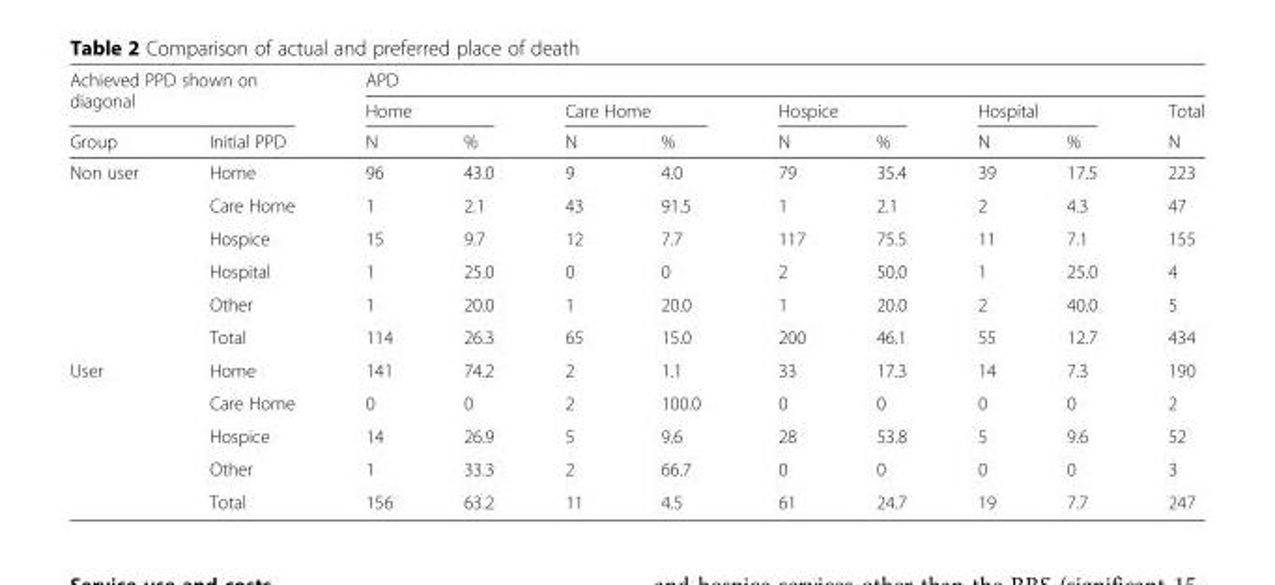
<table><thead><tr><td rowspan="2" colspan="2">Achieved PPD shown on diagonal</td><td colspan="9">APD</td></tr><tr><td colspan="2">Home</td><td colspan="2">Care Home</td><td colspan="2">Hospice</td><td colspan="2">Hospital</td><td rowspan="2">Total N</td></tr><tr><td>Group</td><td>Initial PPD</td><td>N</td><td>%</td><td>N</td><td>%</td><td>N</td><td>%</td><td>N</td><td>%</td></tr></thead><tbody><tr><td rowspan="6">Non user</td><td>Home</td><td>96</td><td>43.0</td><td>9</td><td>4.0</td><td>79</td><td>35.4</td><td>39</td><td>17.5</td><td>223</td></tr><tr><td>Care Home</td><td>1</td><td>2.1</td><td>43</td><td>91.5</td><td>1</td><td>2.1</td><td>2</td><td>4.3</td><td>47</td></tr><tr><td>Hospice</td><td>15</td><td>9.7</td><td>12</td><td>7.7</td><td>117</td><td>75.5</td><td>11</td><td>7.1</td><td>155</td></tr><tr><td>Hospital</td><td>1</td><td>25.0</td><td>0</td><td>0</td><td>2</td><td>50.0</td><td>1</td><td>25.0</td><td>4</td></tr><tr><td>Other</td><td>1</td><td>20.0</td><td>1</td><td>20.0</td><td>1</td><td>20.0</td><td>2</td><td>40.0</td><td>5</td></tr><tr><td>Total</td><td>114</td><td>26.3</td><td>65</td><td>15.0</td><td>200</td><td>46.1</td><td>55</td><td>12.7</td><td>434</td></tr><tr><td rowspan="5">User</td><td>Home</td><td>141</td><td>74.2</td><td>2</td><td>1.1</td><td>33</td><td>17.3</td><td>14</td><td>7.3</td><td>190</td></tr><tr><td>Care Home</td><td>0</td><td>0</td><td>2</td><td>100.0</td><td>0</td><td>0</td><td>0</td><td>0</td><td>2</td></tr><tr><td>Hospice</td><td>14</td><td>26.9</td><td>5</td><td>9.6</td><td>28</td><td>53.8</td><td>5</td><td>9.6</td><td>52</td></tr><tr><td>Other</td><td>1</td><td>33.3</td><td>2</td><td>66.7</td><td>0</td><td>0</td><td>0</td><td>0</td><td>3</td></tr><tr><td>Total</td><td>156</td><td>63.2</td><td>11</td><td>4.5</td><td>61</td><td>24.7</td><td>19</td><td>7.7</td><td>247</td></tr></tbody></table>